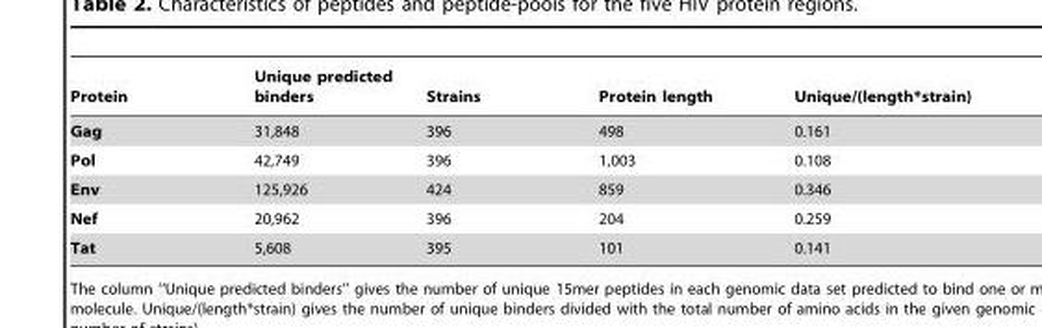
<table><thead><tr><td>Protein</td><td>Unique predicted binders</td><td>Strains</td><td>Protein length</td><td>Unique/(length*strain)</td></tr></thead><tbody><tr><td>Gag</td><td>31,848</td><td>396</td><td>498</td><td>0.161</td></tr><tr><td>Pol</td><td>42,749</td><td>396</td><td>1,003</td><td>0.108</td></tr><tr><td>Env</td><td>125,926</td><td>424</td><td>859</td><td>0.346</td></tr><tr><td>Nef</td><td>20,962</td><td>396</td><td>204</td><td>0.259</td></tr><tr><td>Tat</td><td>5,608</td><td>395</td><td>101</td><td>0.141</td></tr></tbody></table>